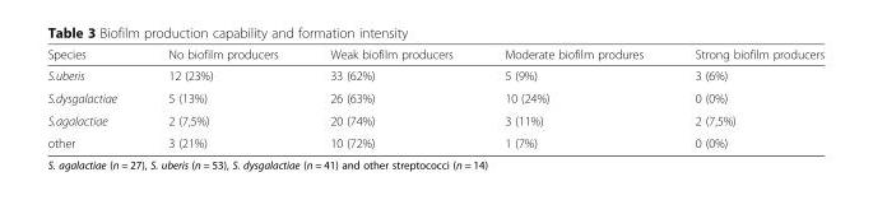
<table><thead><tr><td>Species</td><td>No biofilm producers</td><td>Weak biofilm producers</td><td>Moderate biofilm produres</td><td>Strong biofilm producers</td></tr></thead><tbody><tr><td>S.uberis</td><td>12 (23%)</td><td>33 (62%)</td><td>5 (9%)</td><td>3 (6%)</td></tr><tr><td>S.dysgalactiae</td><td>5 (13%)</td><td>26 (63%)</td><td>10 (24%)</td><td>0 (0%)</td></tr><tr><td>S.agalactiae</td><td>2 (7,5%)</td><td>20 (74%)</td><td>3 (11%)</td><td>2 (7,5%)</td></tr><tr><td>other</td><td>3 (21%)</td><td>10 (72%)</td><td>1 (7%)</td><td>0 (0%)</td></tr></tbody></table>